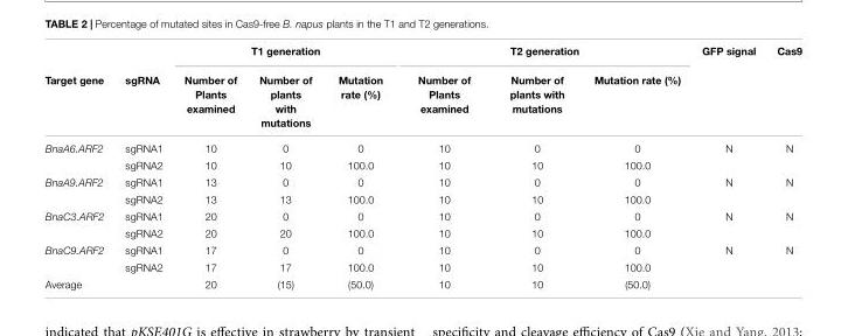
<table><thead><tr><td rowspan="2">Target gene</td><td rowspan="2">sgRNA</td><td colspan="3">T1 generation</td><td colspan="3">T2 generation</td><td rowspan="2">GFP signal</td><td rowspan="2">Cas9</td></tr><tr><td>Number of Plants examined</td><td>Number of plants with mutations</td><td>Mutation rate (%)</td><td>Number of Plants examined</td><td>Number of plants with mutations</td><td>Mutation rate (%)</td></tr></thead><tbody><tr><td rowspan="2">BnaA6.ARF2</td><td>sgRNA1</td><td>10</td><td>0</td><td>0</td><td>10</td><td>0</td><td>0</td><td>N</td><td>N</td></tr><tr><td>sgRNA2</td><td>10</td><td>10</td><td>100.0</td><td>10</td><td>10</td><td>100.0</td><td></td><td></td></tr><tr><td rowspan="2">BnaA9.ARF2</td><td>sgRNA1</td><td>13</td><td>0</td><td>0</td><td>10</td><td>0</td><td>0</td><td>N</td><td>N</td></tr><tr><td>sgRNA2</td><td>13</td><td>13</td><td>100.0</td><td>10</td><td>10</td><td>100.0</td><td></td><td></td></tr><tr><td rowspan="2">BnaC3.ARF2</td><td>sgRNA1</td><td>20</td><td>0</td><td>0</td><td>10</td><td>0</td><td>0</td><td>N</td><td>N</td></tr><tr><td>sgRNA2</td><td>20</td><td>20</td><td>100.0</td><td>10</td><td>10</td><td>100.0</td><td></td><td></td></tr><tr><td rowspan="2">BnaC9.ARF2</td><td>sgRNA1</td><td>17</td><td>0</td><td>0</td><td>10</td><td>0</td><td>0</td><td>N</td><td>N</td></tr><tr><td>sgRNA2</td><td>17</td><td>17</td><td>100.0</td><td>10</td><td>10</td><td>100.0</td><td></td><td></td></tr><tr><td>Average</td><td></td><td>20</td><td>(15)</td><td>(50.0)</td><td>10</td><td>10</td><td>(50.0)</td><td></td><td></td></tr></tbody></table>